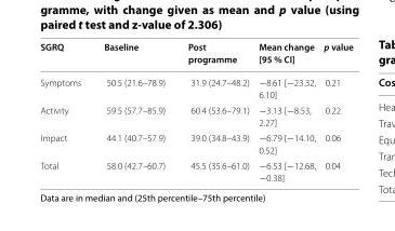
<table><thead><tr><td>SGRQ</td><td>Baseline</td><td>Post programme</td><td>Mean change [95 % CI]</td><td>p value</td></tr></thead><tbody><tr><td>Symptoms</td><td>50.5 (21.6–78.9)</td><td>31.9 (24.7–48.2)</td><td>−8.61 [−23.32, 6.10]</td><td>0.21</td></tr><tr><td>Activity</td><td>59.5 (57.7–85.9)</td><td>60.4 (53.6–79.1)</td><td>−3.13 [−8.53, 2.27]</td><td>0.22</td></tr><tr><td>Impact</td><td>44.1 (40.7–57.9)</td><td>39.0 (34.8–43.9)</td><td>−6.79 [−14.10, 0.52]</td><td>0.06</td></tr><tr><td>Total</td><td>58.0 (42.7–60.7)</td><td>45.5 (35.6–61.0)</td><td>−6.53 [−12.68, −0.38]</td><td>0.04</td></tr></tbody></table>